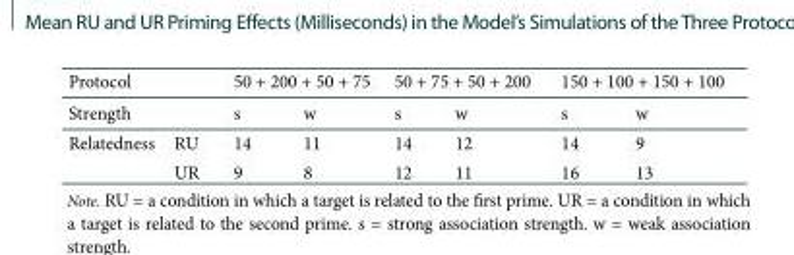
<table><thead><tr><td rowspan="2">Protocol Strength</td><td rowspan="2"></td><td colspan="2">50 + 200 + 50 + 75</td><td colspan="2">50 + 75 + 50 + 200</td><td colspan="2">150 + 100 + 150 + 100</td></tr><tr><td>s</td><td>w</td><td>s</td><td>w</td><td>s</td><td>w</td></tr></thead><tbody><tr><td rowspan="2">Relatedness</td><td>RU</td><td>14</td><td>11</td><td>14</td><td>12</td><td>14</td><td>9</td></tr><tr><td>UR</td><td>9</td><td>8</td><td>12</td><td>11</td><td>16</td><td>13</td></tr></tbody></table>